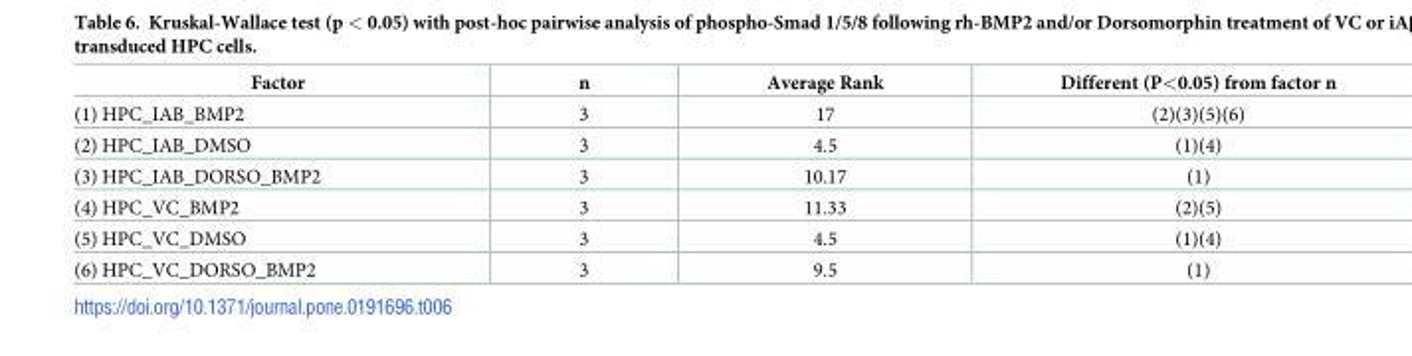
<table><thead><tr><td>Factor</td><td>n</td><td>Average Rank</td><td>Different (P&lt;0.05) from factor n</td></tr></thead><tbody><tr><td>(1) HPC_IAB_BMP2</td><td>3</td><td>17</td><td>(2)(3)(5)(6)</td></tr><tr><td>(2) HPC_IAB_DMSO</td><td>3</td><td>4.5</td><td>(1)(4)</td></tr><tr><td>(3) HPC_IAB_DORSO_BMP2</td><td>3</td><td>10.17</td><td>(1)</td></tr><tr><td>(4) HPC_VC_BMP2</td><td>3</td><td>11.33</td><td>(2)(5)</td></tr><tr><td>(5) HPC_VC_DMSO</td><td>3</td><td>4.5</td><td>(1)(4)</td></tr><tr><td>(6) HPC_VC_DORSO_BMP2</td><td>3</td><td>9.5</td><td>(1)</td></tr></tbody></table>